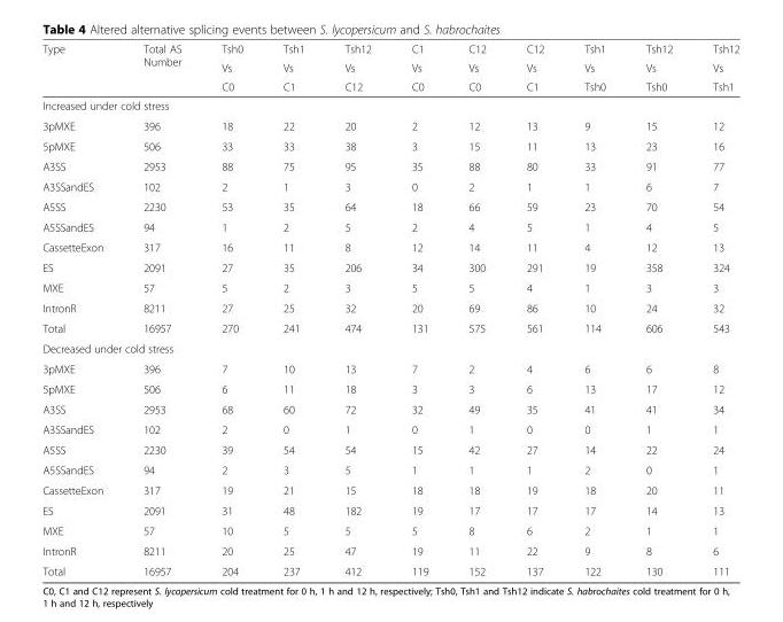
<table><thead><tr><td rowspan="3">Type</td><td rowspan="3">Total AS Number</td><td rowspan="3">Tsh0 Vs C0</td><td rowspan="3">Tsh1 Vs C1</td><td rowspan="3">Tsh12 Vs C12</td><td rowspan="3">C1 Vs C0</td><td rowspan="3">C12 Vs C0</td><td rowspan="3">C12 Vs C1</td><td rowspan="3">Tsh1 Vs Tsh0</td><td rowspan="3">Tsh12 Vs Tsh0</td><td rowspan="3">Tsh12 Vs Tsh1</td></tr><tr></tr><tr></tr></thead><tbody><tr><td colspan="11">Increased under cold stress</td></tr><tr><td>3pMXE</td><td>396</td><td>18</td><td>22</td><td>20</td><td>2</td><td>12</td><td>13</td><td>9</td><td>15</td><td>12</td></tr><tr><td>5pMXE</td><td>506</td><td>33</td><td>33</td><td>38</td><td>3</td><td>15</td><td>11</td><td>13</td><td>23</td><td>16</td></tr><tr><td>A3SS</td><td>2953</td><td>88</td><td>75</td><td>95</td><td>35</td><td>88</td><td>80</td><td>33</td><td>91</td><td>77</td></tr><tr><td>A3SSandES</td><td>102</td><td>2</td><td>1</td><td>3</td><td>0</td><td>2</td><td>1</td><td>1</td><td>6</td><td>7</td></tr><tr><td>A5SS</td><td>2230</td><td>53</td><td>35</td><td>64</td><td>18</td><td>66</td><td>59</td><td>23</td><td>70</td><td>54</td></tr><tr><td>A5SSandES</td><td>94</td><td>1</td><td>2</td><td>5</td><td>2</td><td>4</td><td>5</td><td>1</td><td>4</td><td>5</td></tr><tr><td>CassetteExon</td><td>317</td><td>16</td><td>11</td><td>8</td><td>12</td><td>14</td><td>11</td><td>4</td><td>12</td><td>13</td></tr><tr><td>ES</td><td>2091</td><td>27</td><td>35</td><td>206</td><td>34</td><td>300</td><td>291</td><td>19</td><td>358</td><td>324</td></tr><tr><td>MXE</td><td>57</td><td>5</td><td>2</td><td>3</td><td>5</td><td>5</td><td>4</td><td>1</td><td>3</td><td>3</td></tr><tr><td>IntronR</td><td>8211</td><td>27</td><td>25</td><td>32</td><td>20</td><td>69</td><td>86</td><td>10</td><td>24</td><td>32</td></tr><tr><td>Total</td><td>16957</td><td>270</td><td>241</td><td>474</td><td>131</td><td>575</td><td>561</td><td>114</td><td>606</td><td>543</td></tr><tr><td colspan="11">Decreased under cold stress</td></tr><tr><td>3pMXE</td><td>396</td><td>7</td><td>10</td><td>13</td><td>7</td><td>2</td><td>4</td><td>6</td><td>6</td><td>8</td></tr><tr><td>5pMXE</td><td>506</td><td>6</td><td>11</td><td>18</td><td>3</td><td>3</td><td>6</td><td>13</td><td>17</td><td>12</td></tr><tr><td>A3SS</td><td>2953</td><td>68</td><td>60</td><td>72</td><td>32</td><td>49</td><td>35</td><td>41</td><td>41</td><td>34</td></tr><tr><td>A3SSandES</td><td>102</td><td>2</td><td>0</td><td>1</td><td>0</td><td>1</td><td>0</td><td>0</td><td>1</td><td>1</td></tr><tr><td>A5SS</td><td>2230</td><td>39</td><td>54</td><td>54</td><td>15</td><td>42</td><td>27</td><td>14</td><td>22</td><td>24</td></tr><tr><td>A5SSandES</td><td>94</td><td>2</td><td>3</td><td>5</td><td>1</td><td>1</td><td>1</td><td>2</td><td>0</td><td>1</td></tr><tr><td>CassetteExon</td><td>317</td><td>19</td><td>21</td><td>15</td><td>18</td><td>18</td><td>19</td><td>18</td><td>20</td><td>11</td></tr><tr><td>ES</td><td>2091</td><td>31</td><td>48</td><td>182</td><td>19</td><td>17</td><td>17</td><td>17</td><td>14</td><td>13</td></tr><tr><td>MXE</td><td>57</td><td>10</td><td>5</td><td>5</td><td>5</td><td>8</td><td>6</td><td>2</td><td>1</td><td>1</td></tr><tr><td>IntronR</td><td>8211</td><td>20</td><td>25</td><td>47</td><td>19</td><td>11</td><td>22</td><td>9</td><td>8</td><td>6</td></tr><tr><td>Total</td><td>16957</td><td>204</td><td>237</td><td>412</td><td>119</td><td>152</td><td>137</td><td>122</td><td>130</td><td>111</td></tr></tbody></table>